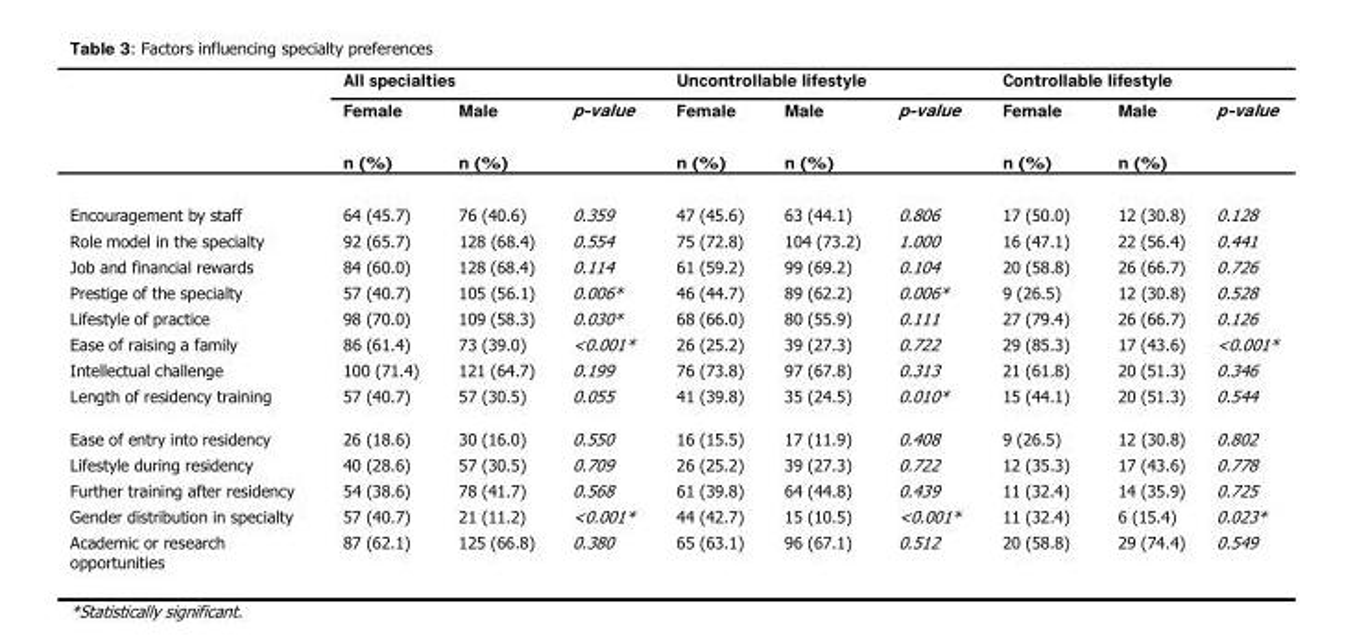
<table><thead><tr><td rowspan="2"></td><td colspan="3">All specialties</td><td colspan="3">Uncontrollable lifestyle</td><td colspan="3">Controllable lifestyle</td></tr><tr><td>Female n (%)</td><td>Male n (%)</td><td>p-value</td><td>Female n (%)</td><td>Male n (%)</td><td>p-value</td><td>Female n (%)</td><td>Male n (%)</td><td>p-value</td></tr></thead><tbody><tr><td>Encouragement by staff</td><td>64 (45.7)</td><td>76 (40.6)</td><td>0.359</td><td>47 (45.6)</td><td>63 (44.1)</td><td>0.806</td><td>17 (50.0)</td><td>12 (30.8)</td><td>0.128</td></tr><tr><td>Role model in the specialty</td><td>92 (65.7)</td><td>128 (68.4)</td><td>0.554</td><td>75 (72.8)</td><td>104 (73.2)</td><td>1.000</td><td>16 (47.1)</td><td>22 (56.4)</td><td>0.441</td></tr><tr><td>Job and financial rewards</td><td>84 (60.0)</td><td>128 (68.4)</td><td>0.114</td><td>61 (59.2)</td><td>99 (69.2)</td><td>0.104</td><td>20 (58.8)</td><td>26 (66.7)</td><td>0.726</td></tr><tr><td>Prestige of the specialty</td><td>57 (40.7)</td><td>105 (56.1)</td><td>0.006*</td><td>46 (44.7)</td><td>89 (62.2)</td><td>0.006*</td><td>9 (26.5)</td><td>12 (30.8)</td><td>0.528</td></tr><tr><td>Lifestyle of practice</td><td>98 (70.0)</td><td>109 (58.3)</td><td>0.030*</td><td>68 (66.0)</td><td>80 (55.9)</td><td>0.111</td><td>27 (79.4)</td><td>26 (66.7)</td><td>0.126</td></tr><tr><td>Ease of raising a family</td><td>86 (61.4)</td><td>73 (39.0)</td><td>&lt;0.001*</td><td>26 (25.2)</td><td>39 (27.3)</td><td>0.722</td><td>29 (85.3)</td><td>17 (43.6)</td><td>&lt;0.001*</td></tr><tr><td>Intellectual challenge</td><td>100 (71.4)</td><td>121 (64.7)</td><td>0.199</td><td>76 (73.8)</td><td>97 (67.8)</td><td>0.313</td><td>21 (61.8)</td><td>20 (51.3)</td><td>0.346</td></tr><tr><td>Length of residency training</td><td>57 (40.7)</td><td>57 (30.5)</td><td>0.055</td><td>41 (39.8)</td><td>35 (24.5)</td><td>0.010*</td><td>15 (44.1)</td><td>20 (51.3)</td><td>0.544</td></tr><tr><td>Ease of entry into residency</td><td>26 (18.6)</td><td>30 (16.0)</td><td>0.550</td><td>16 (15.5)</td><td>17 (11.9)</td><td>0.408</td><td>9 (26.5)</td><td>12 (30.8)</td><td>0.802</td></tr><tr><td>Lifestyle during residency</td><td>40 (28.6)</td><td>57 (30.5)</td><td>0.709</td><td>26 (25.2)</td><td>39 (27.3)</td><td>0.722</td><td>12 (35.3)</td><td>17 (43.6)</td><td>0.778</td></tr><tr><td>Further training after residency</td><td>54 (38.6)</td><td>78 (41.7)</td><td>0.568</td><td>61 (39.8)</td><td>64 (44.8)</td><td>0.439</td><td>11 (32.4)</td><td>14 (35.9)</td><td>0.725</td></tr><tr><td>Gender distribution in specialty</td><td>57 (40.7)</td><td>21 (11.2)</td><td>&lt;0.001*</td><td>44 (42.7)</td><td>15 (10.5)</td><td>&lt;0.001*</td><td>11 (32.4)</td><td>6 (15.4)</td><td>0.023*</td></tr><tr><td>Academic or research opportunities</td><td>87 (62.1)</td><td>125 (66.8)</td><td>0.380</td><td>65 (63.1)</td><td>96 (67.1)</td><td>0.512</td><td>20 (58.8)</td><td>29 (74.4)</td><td>0.549</td></tr></tbody></table>